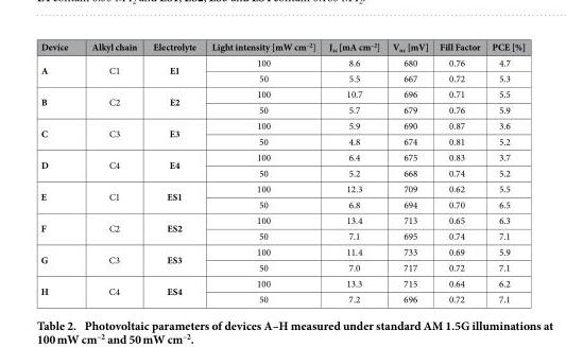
<table><thead><tr><td>Device</td><td>Alkyl chain</td><td>Electrolyte</td><td>Light intensity [mW cm<sup>–2</sup>]</td><td>J<sub>sc</sub> [mA cm<sup>–2</sup>]</td><td>V<sub>oc</sub> [mV]</td><td>Fill Factor</td><td>PCE [%]</td></tr></thead><tbody><tr><td rowspan="2">A</td><td rowspan="2">C1</td><td rowspan="2">E1</td><td>100</td><td>8.6</td><td>680</td><td>0.76</td><td>4.7</td></tr><tr><td>50</td><td>5.5</td><td>667</td><td>0.72</td><td>5.3</td></tr><tr><td rowspan="2">B</td><td rowspan="2">C2</td><td rowspan="2">E2</td><td>100</td><td>10.7</td><td>696</td><td>0.71</td><td>5.5</td></tr><tr><td>50</td><td>5.7</td><td>679</td><td>0.76</td><td>5.9</td></tr><tr><td rowspan="2">C</td><td rowspan="2">C3</td><td rowspan="2">E3</td><td>100</td><td>5.9</td><td>690</td><td>0.87</td><td>3.6</td></tr><tr><td>50</td><td>4.8</td><td>674</td><td>0.81</td><td>5.2</td></tr><tr><td rowspan="2">D</td><td rowspan="2">C4</td><td rowspan="2">E4</td><td>100</td><td>6.4</td><td>675</td><td>0.83</td><td>3.7</td></tr><tr><td>50</td><td>5.2</td><td>668</td><td>0.74</td><td>5.2</td></tr><tr><td rowspan="2">E</td><td rowspan="2">C1</td><td rowspan="2">ES1</td><td>100</td><td>12.3</td><td>709</td><td>0.62</td><td>5.5</td></tr><tr><td>50</td><td>6.8</td><td>694</td><td>0.70</td><td>6.5</td></tr><tr><td rowspan="2">F</td><td rowspan="2">C2</td><td rowspan="2">ES2</td><td>100</td><td>13.4</td><td>713</td><td>0.65</td><td>6.3</td></tr><tr><td>50</td><td>7.1</td><td>695</td><td>0.74</td><td>7.1</td></tr><tr><td rowspan="2">G</td><td rowspan="2">C3</td><td rowspan="2">ES3</td><td>100</td><td>11.4</td><td>733</td><td>0.69</td><td>5.9</td></tr><tr><td>50</td><td>7.0</td><td>717</td><td>0.72</td><td>7.1</td></tr><tr><td rowspan="2">H</td><td rowspan="2">C4</td><td rowspan="2">ES4</td><td>100</td><td>13.3</td><td>715</td><td>0.64</td><td>6.2</td></tr><tr><td>50</td><td>7.2</td><td>696</td><td>0.72</td><td>7.1</td></tr></tbody></table>